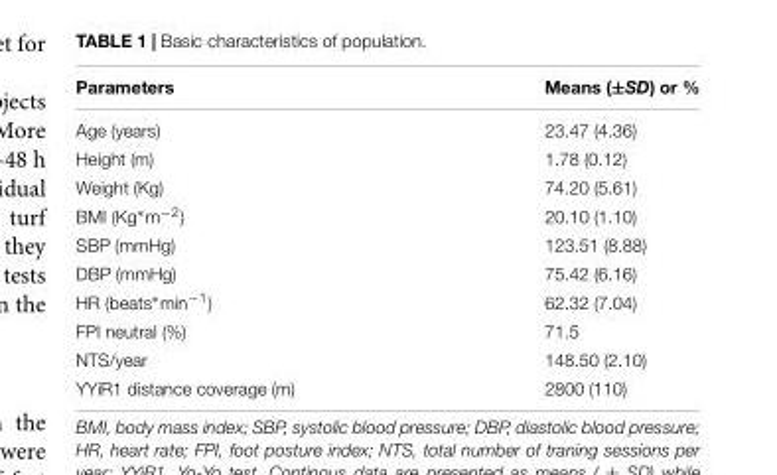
<table><thead><tr><td>Parameters</td><td>Means (±SD) or %</td></tr></thead><tbody><tr><td>Age (years)</td><td>23.47 (4.36)</td></tr><tr><td>Height (m)</td><td>1.78 (0.12)</td></tr><tr><td>Weight (Kg)</td><td>74.20 (5.61)</td></tr><tr><td>BMI (Kg∗m<sup>−2</sup>)</td><td>20.10 (1.10)</td></tr><tr><td>SBP (mmHg)</td><td>123.51 (8.88)</td></tr><tr><td>DBP (mmHg)</td><td>75.42 (6.16)</td></tr><tr><td>HR (beats∗min<sup>−1</sup>)</td><td>62.32 (7.04)</td></tr><tr><td>FPI neutral (%)</td><td>71.5</td></tr><tr><td>NTS/year</td><td>148.50 (2.10)</td></tr><tr><td>YYiR1 distance coverage (m)</td><td>2800 (110)</td></tr></tbody></table>